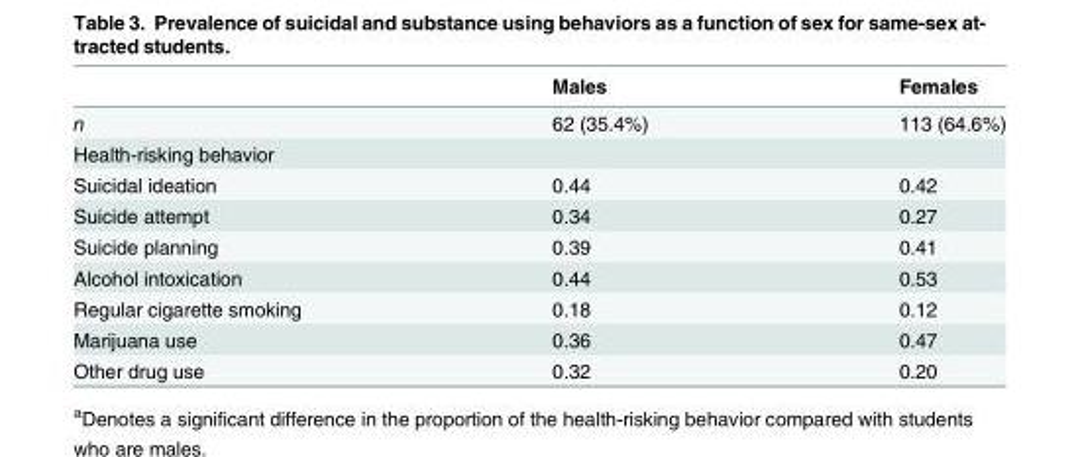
<table><thead><tr><td></td><td>Males</td><td>Females</td></tr></thead><tbody><tr><td>n</td><td>62 (35.4%)</td><td>113 (64.6%)</td></tr><tr><td colspan="3">Health-risking behavior</td></tr><tr><td>Suicidal ideation</td><td>0.44</td><td>0.42</td></tr><tr><td>Suicide attempt</td><td>0.34</td><td>0.27</td></tr><tr><td>Suicide planning</td><td>0.39</td><td>0.41</td></tr><tr><td>Alcohol intoxication</td><td>0.44</td><td>0.53</td></tr><tr><td>Regular cigarette smoking</td><td>0.18</td><td>0.12</td></tr><tr><td>Marijuana use</td><td>0.36</td><td>0.47</td></tr><tr><td>Other drug use</td><td>0.32</td><td>0.20</td></tr></tbody></table>